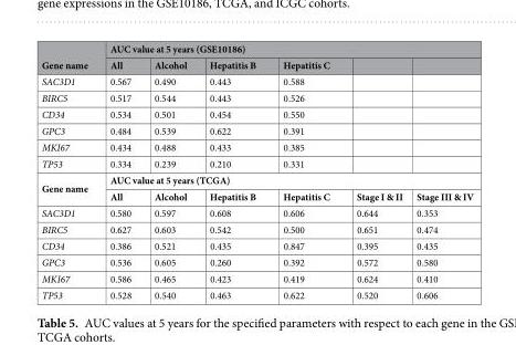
<table><thead><tr><td rowspan="2">Gene name</td><td colspan="6">AUC value at 5 years (GSE10186)</td></tr><tr><td>All</td><td>Alcohol</td><td>Hepatitis B</td><td>Hepatitis C</td><td></td><td></td></tr></thead><tbody><tr><td>SAC3D1</td><td>0.567</td><td>0.490</td><td>0.443</td><td>0.588</td><td></td><td></td></tr><tr><td>BIRC5</td><td>0.517</td><td>0.544</td><td>0.443</td><td>0.526</td><td></td><td></td></tr><tr><td>CD34</td><td>0.534</td><td>0.501</td><td>0.454</td><td>0.550</td><td></td><td></td></tr><tr><td>GPC3</td><td>0.484</td><td>0.539</td><td>0.622</td><td>0.391</td><td></td><td></td></tr><tr><td>MKI67</td><td>0.434</td><td>0.488</td><td>0.433</td><td>0.385</td><td></td><td></td></tr><tr><td>TP53</td><td>0.334</td><td>0.239</td><td>0.210</td><td>0.331</td><td></td><td></td></tr><tr><td rowspan="2">Gene name</td><td colspan="6">AUC value at 5 years (TCGA)</td></tr><tr><td>All</td><td>Alcohol</td><td>Hepatitis B</td><td>Hepatitis C</td><td>Stage I &amp; II</td><td>Stage III &amp; IV</td></tr><tr><td>SAC3D1</td><td>0.580</td><td>0.597</td><td>0.608</td><td>0.606</td><td>0.644</td><td>0.353</td></tr><tr><td>BIRC5</td><td>0.627</td><td>0.603</td><td>0.542</td><td>0.500</td><td>0.651</td><td>0.474</td></tr><tr><td>CD34</td><td>0.386</td><td>0.521</td><td>0.435</td><td>0.847</td><td>0.395</td><td>0.435</td></tr><tr><td>GPC3</td><td>0.536</td><td>0.605</td><td>0.260</td><td>0.392</td><td>0.572</td><td>0.580</td></tr><tr><td>MKI67</td><td>0.586</td><td>0.465</td><td>0.423</td><td>0.419</td><td>0.624</td><td>0.410</td></tr><tr><td>TP53</td><td>0.528</td><td>0.540</td><td>0.463</td><td>0.622</td><td>0.520</td><td>0.606</td></tr></tbody></table>